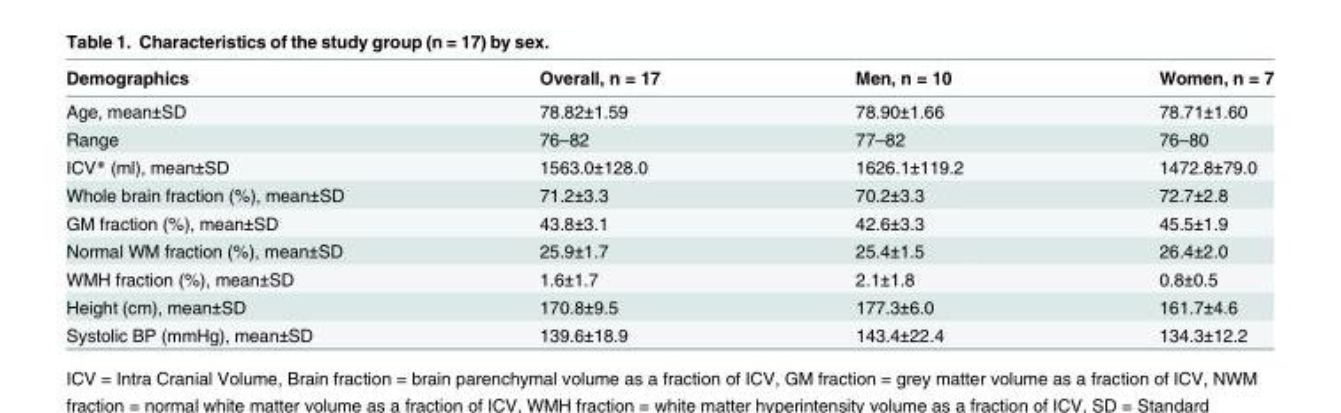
<table><thead><tr><td>Demographics</td><td>Overall, n = 17</td><td>Men, n = 10</td><td>Women, n = 7</td></tr></thead><tbody><tr><td>Age, mean±SD</td><td>78.82±1.59</td><td>78.90±1.66</td><td>78.71±1.60</td></tr><tr><td>Range</td><td>76–82</td><td>77–82</td><td>76–80</td></tr><tr><td>ICV* (ml), mean±SD</td><td>1563.0±128.0</td><td>1626.1±119.2</td><td>1472.8±79.0</td></tr><tr><td>Whole brain fraction (%), mean±SD</td><td>71.2±3.3</td><td>70.2±3.3</td><td>72.7±2.8</td></tr><tr><td>GM fraction (%), mean±SD</td><td>43.8±3.1</td><td>42.6±3.3</td><td>45.5±1.9</td></tr><tr><td>Normal WM fraction (%), mean±SD</td><td>25.9±1.7</td><td>25.4±1.5</td><td>26.4±2.0</td></tr><tr><td>WMH fraction (%), mean±SD</td><td>1.6±1.7</td><td>2.1±1.8</td><td>0.8±0.5</td></tr><tr><td>Height (cm), mean±SD</td><td>170.8±9.5</td><td>177.3±6.0</td><td>161.7±4.6</td></tr><tr><td>Systolic BP (mmHg), mean±SD</td><td>139.6±18.9</td><td>143.4±22.4</td><td>134.3±12.2</td></tr></tbody></table>